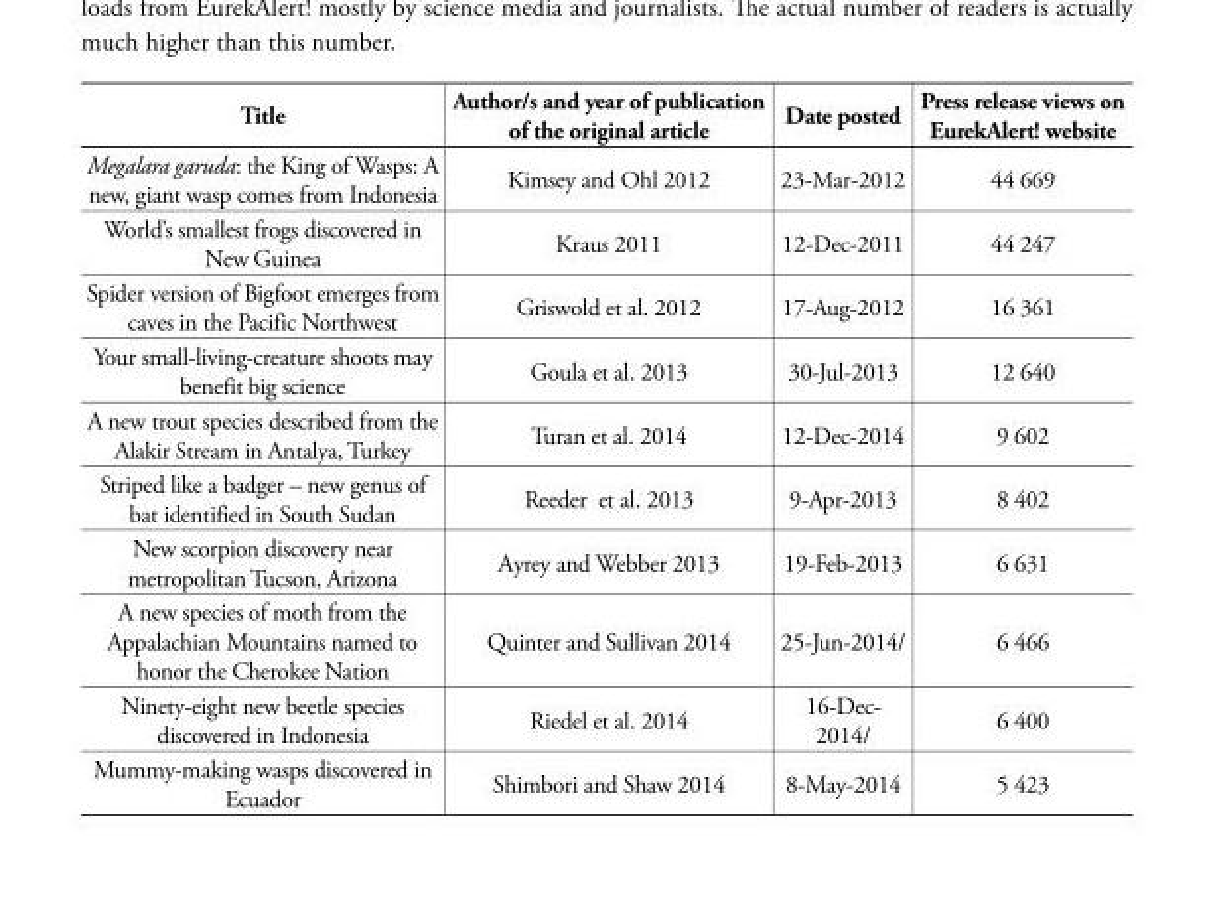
<table><thead><tr><td>Title</td><td>Author/s and year of publication of the original article</td><td>Date posted</td><td>Press release views on EurekAlert! website</td></tr></thead><tbody><tr><td>Megalara garuda: the King of Wasps: A new, giant wasp comes from Indonesia</td><td>Kimsey and Ohl 2012</td><td>23-Mar-2012</td><td>44 669</td></tr><tr><td>World’s smallest frogs discovered in New Guinea</td><td>Kraus 2011</td><td>12-Dec-2011</td><td>44 247</td></tr><tr><td>Spider version of Bigfoot emerges from caves in the Pacific Northwest</td><td>Griswold et al. 2012</td><td>17-Aug-2012</td><td>16 361</td></tr><tr><td>Your small-living-creature shoots may benefit big science</td><td>Goula et al. 2013</td><td>30-Jul-2013</td><td>12 640</td></tr><tr><td>A new trout species described from the Alakir Stream in Antalya, Turkey</td><td>Turan et al. 2014</td><td>12-Dec-2014</td><td>9 602</td></tr><tr><td>Striped like a badger – new genus of bat identified in South Sudan</td><td>Reeder et al. 2013</td><td>9-Apr-2013</td><td>8 402</td></tr><tr><td>New scorpion discovery near metropolitan Tucson, Arizona</td><td>Ayrey and Webber 2013</td><td>19-Feb-2013</td><td>6 631</td></tr><tr><td>A new species of moth from the Appalachian Mountains named to honor the Cherokee Nation</td><td>Quinter and Sullivan 2014</td><td>25-Jun-2014/</td><td>6 466</td></tr><tr><td>Ninety-eight new beetle species discovered in Indonesia</td><td>Riedel et al. 2014</td><td>16-Dec- 2014/</td><td>6 400</td></tr><tr><td>Mummy-making wasps discovered in Ecuador</td><td>Shimbori and Shaw 2014</td><td>8-May-2014</td><td>5 423</td></tr></tbody></table>